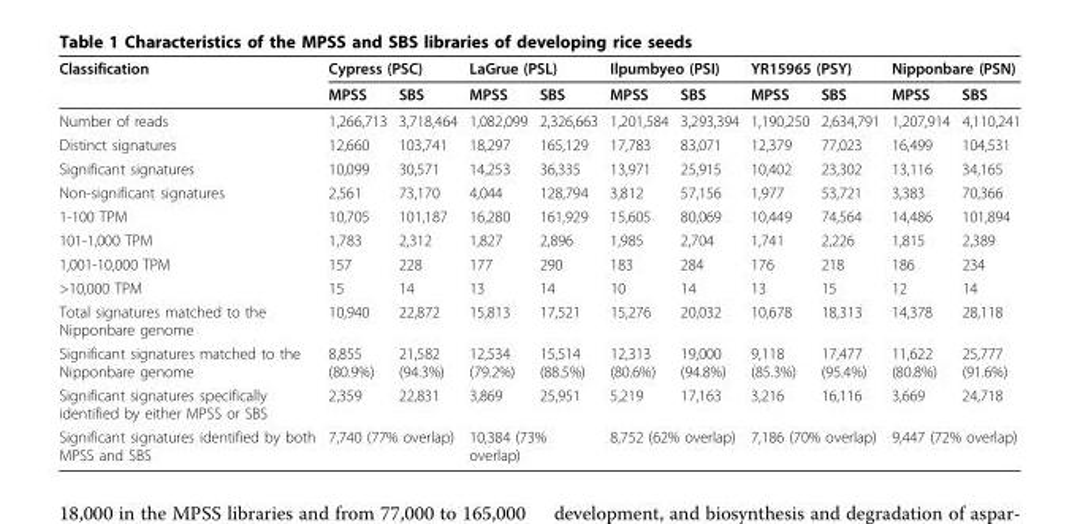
<table><thead><tr><td rowspan="2">Classification</td><td colspan="2">Cypress (PSC)</td><td colspan="2">LaGrue (PSL)</td><td colspan="2">Ilpumbyeo (PSI)</td><td colspan="2">YR15965 (PSY)</td><td colspan="2">Nipponbare (PSN)</td></tr><tr><td>MPSS</td><td>SBS</td><td>MPSS</td><td>SBS</td><td>MPSS</td><td>SBS</td><td>MPSS</td><td>SBS</td><td>MPSS</td><td>SBS</td></tr></thead><tbody><tr><td>Number of reads</td><td>1,266,713</td><td>3,718,464</td><td>1,082,099</td><td>2,326,663</td><td>1,201,584</td><td>3,293,394</td><td>1,190,250</td><td>2,634,791</td><td>1,207,914</td><td>4,110,241</td></tr><tr><td>Distinct signatures</td><td>12,660</td><td>103,741</td><td>18,297</td><td>165,129</td><td>17,783</td><td>83,071</td><td>12,379</td><td>77,023</td><td>16,499</td><td>104,531</td></tr><tr><td>Significant signatures</td><td>10,099</td><td>30,571</td><td>14,253</td><td>36,335</td><td>13,971</td><td>25,915</td><td>10,402</td><td>23,302</td><td>13,116</td><td>34,165</td></tr><tr><td>Non-significant signatures</td><td>2,561</td><td>73,170</td><td>4,044</td><td>128,794</td><td>3,812</td><td>57,156</td><td>1,977</td><td>53,721</td><td>3,383</td><td>70,366</td></tr><tr><td>1-100 TPM</td><td>10,705</td><td>101,187</td><td>16,280</td><td>161,929</td><td>15,605</td><td>80,069</td><td>10,449</td><td>74,564</td><td>14,486</td><td>101,894</td></tr><tr><td>101-1,000 TPM</td><td>1,783</td><td>2,312</td><td>1,827</td><td>2,896</td><td>1,985</td><td>2,704</td><td>1,741</td><td>2,226</td><td>1,815</td><td>2,389</td></tr><tr><td>1,001-10,000 TPM</td><td>157</td><td>228</td><td>177</td><td>290</td><td>183</td><td>284</td><td>176</td><td>218</td><td>186</td><td>234</td></tr><tr><td>&gt;10,000 TPM</td><td>15</td><td>14</td><td>13</td><td>14</td><td>10</td><td>14</td><td>13</td><td>15</td><td>12</td><td>14</td></tr><tr><td>Total signatures matched to the Nipponbare genome</td><td>10,940</td><td>22,872</td><td>15,813</td><td>17,521</td><td>15,276</td><td>20,032</td><td>10,678</td><td>18,313</td><td>14,378</td><td>28,118</td></tr><tr><td>Significant signatures matched to the Nipponbare genome</td><td>8,855 (80.9%)</td><td>21,582 (94.3%)</td><td>12,534 (79.2%)</td><td>15,514 (88.5%)</td><td>12,313 (80.6%)</td><td>19,000 (94.8%)</td><td>9,118 (85.3%)</td><td>17,477 (95.4%)</td><td>11,622 (80.8%)</td><td>25,777 (91.6%)</td></tr><tr><td>Significant signatures specifically identified by either MPSS or SBS</td><td>2,359</td><td>22,831</td><td>3,869</td><td>25,951</td><td>5,219</td><td>17,163</td><td>3,216</td><td>16,116</td><td>3,669</td><td>24,718</td></tr><tr><td>Significant signatures identified by both MPSS and SBS</td><td colspan="2">7,740 (77% overlap)</td><td colspan="2">10,384 (73% overlap)</td><td colspan="2">8,752 (62% overlap)</td><td colspan="2">7,186 (70% overlap)</td><td colspan="2">9,447 (72% overlap)</td></tr></tbody></table>